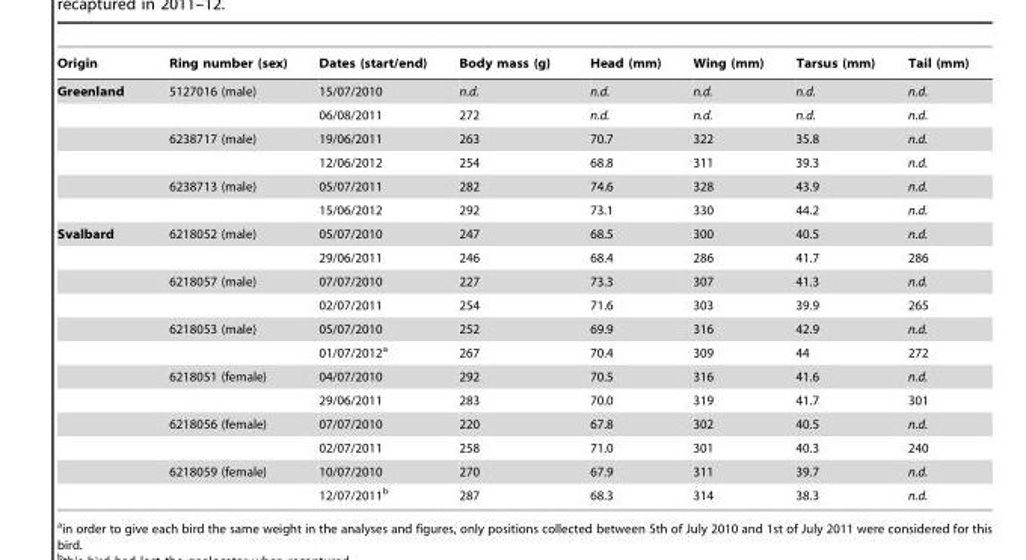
<table><thead><tr><td>Origin</td><td>Ring number (sex)</td><td>Dates (start/end)</td><td>Body mass (g)</td><td>Head (mm)</td><td>Wing (mm)</td><td>Tarsus (mm)</td><td>Tail (mm)</td></tr></thead><tbody><tr><td rowspan="6">Greenland</td><td>5127016 (male)</td><td>15/07/2010</td><td>n.d.</td><td>n.d.</td><td>n.d.</td><td>n.d.</td><td>n.d.</td></tr><tr><td></td><td>06/08/2011</td><td>272</td><td>n.d.</td><td>n.d.</td><td>n.d.</td><td>n.d.</td></tr><tr><td>6238717 (male)</td><td>19/06/2011</td><td>263</td><td>70.7</td><td>322</td><td>35.8</td><td>n.d.</td></tr><tr><td></td><td>12/06/2012</td><td>254</td><td>68.8</td><td>311</td><td>39.3</td><td>n.d.</td></tr><tr><td>6238713 (male)</td><td>05/07/2011</td><td>282</td><td>74.6</td><td>328</td><td>43.9</td><td>n.d.</td></tr><tr><td></td><td>15/06/2012</td><td>292</td><td>73.1</td><td>330</td><td>44.2</td><td>n.d.</td></tr><tr><td rowspan="12">Svalbard</td><td>6218052 (male)</td><td>05/07/2010</td><td>247</td><td>68.5</td><td>300</td><td>40.5</td><td>n.d.</td></tr><tr><td></td><td>29/06/2011</td><td>246</td><td>68.4</td><td>286</td><td>41.7</td><td>286</td></tr><tr><td>6218057 (male)</td><td>07/07/2010</td><td>227</td><td>73.3</td><td>307</td><td>41.3</td><td>n.d.</td></tr><tr><td></td><td>02/07/2011</td><td>254</td><td>71.6</td><td>303</td><td>39.9</td><td>265</td></tr><tr><td>6218053 (male)</td><td>05/07/2010</td><td>252</td><td>69.9</td><td>316</td><td>42.9</td><td>n.d.</td></tr><tr><td></td><td>01/07/2012<sup>a</sup></td><td>267</td><td>70.4</td><td>309</td><td>44</td><td>272</td></tr><tr><td>6218051 (female)</td><td>04/07/2010</td><td>292</td><td>70.5</td><td>316</td><td>41.6</td><td>n.d.</td></tr><tr><td></td><td>29/06/2011</td><td>283</td><td>70.0</td><td>319</td><td>41.7</td><td>301</td></tr><tr><td>6218056 (female)</td><td>07/07/2010</td><td>220</td><td>67.8</td><td>302</td><td>40.5</td><td>n.d.</td></tr><tr><td></td><td>02/07/2011</td><td>258</td><td>71.0</td><td>301</td><td>40.3</td><td>240</td></tr><tr><td>6218059 (female)</td><td>10/07/2010</td><td>270</td><td>67.9</td><td>311</td><td>39.7</td><td>n.d.</td></tr><tr><td></td><td>12/07/2011<sup>b</sup></td><td>287</td><td>68.3</td><td>314</td><td>38.3</td><td>n.d.</td></tr></tbody></table>